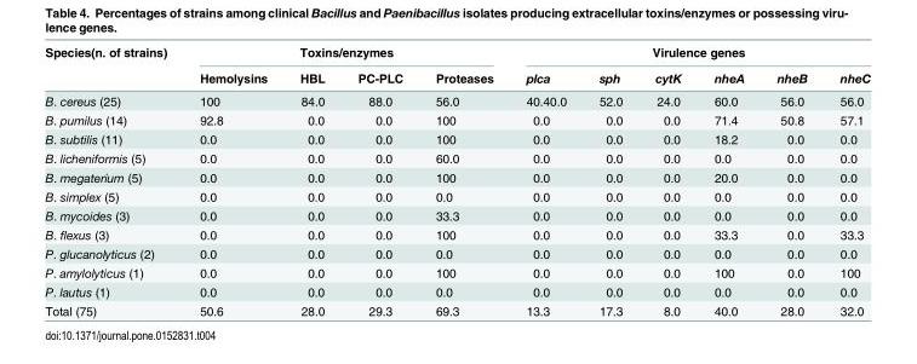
<table><thead><tr><td rowspan="2">Species(n. of strains)</td><td colspan="4">Toxins/enzymes</td><td colspan="6">Virulence genes</td></tr><tr><td>Hemolysins</td><td>HBL</td><td>PC-PLC</td><td>Proteases</td><td>plca</td><td>sph</td><td>cytK</td><td>nheA</td><td>nheB</td><td>nheC</td></tr></thead><tbody><tr><td>B. cereus (25)</td><td>100</td><td>84.0</td><td>88.0</td><td>56.0</td><td>40.40.0</td><td>52.0</td><td>24.0</td><td>60.0</td><td>56.0</td><td>56.0</td></tr><tr><td>B. pumilus (14)</td><td>92.8</td><td>0.0</td><td>0.0</td><td>100</td><td>0.0</td><td>0.0</td><td>0.0</td><td>71.4</td><td>50.8</td><td>57.1</td></tr><tr><td>B. subtilis (11)</td><td>0.0</td><td>0.0</td><td>0.0</td><td>100</td><td>0.0</td><td>0.0</td><td>0.0</td><td>18.2</td><td>0.0</td><td>0.0</td></tr><tr><td>B. licheniformis (5)</td><td>0.0</td><td>0.0</td><td>0.0</td><td>60.0</td><td>0.0</td><td>0.0</td><td>0.0</td><td>0.0</td><td>0.0</td><td>0.0</td></tr><tr><td>B. megaterium (5)</td><td>0.0</td><td>0.0</td><td>0.0</td><td>100</td><td>0.0</td><td>0.0</td><td>0.0</td><td>20.0</td><td>0.0</td><td>0.0</td></tr><tr><td>B. simplex (5)</td><td>0.0</td><td>0.0</td><td>0.0</td><td>0.0</td><td>0.0</td><td>0.0</td><td>0.0</td><td>0.0</td><td>0.0</td><td>0.0</td></tr><tr><td>B. mycoides (3)</td><td>0.0</td><td>0.0</td><td>0.0</td><td>33.3</td><td>0.0</td><td>0.0</td><td>0.0</td><td>0.0</td><td>0.0</td><td>0.0</td></tr><tr><td>B. flexus (3)</td><td>0.0</td><td>0.0</td><td>0.0</td><td>100</td><td>0.0</td><td>0.0</td><td>0.0</td><td>33.3</td><td>0.0</td><td>33.3</td></tr><tr><td>P. glucanolyticus (2)</td><td>0.0</td><td>0.0</td><td>0.0</td><td>0.0</td><td>0.0</td><td>0.0</td><td>0.0</td><td>0.0</td><td>0.0</td><td>0.0</td></tr><tr><td>P. amylolyticus (1)</td><td>0.0</td><td>0.0</td><td>0.0</td><td>100</td><td>0.0</td><td>0.0</td><td>0.0</td><td>100</td><td>0.0</td><td>100</td></tr><tr><td>P. lautus (1)</td><td>0.0</td><td>0.0</td><td>0.0</td><td>0.0</td><td>0.0</td><td>0.0</td><td>0.0</td><td>0.0</td><td>0.0</td><td>0.0</td></tr><tr><td>Total (75)</td><td>50.6</td><td>28.0</td><td>29.3</td><td>69.3</td><td>13.3</td><td>17.3</td><td>8.0</td><td>40.0</td><td>28.0</td><td>32.0</td></tr></tbody></table>